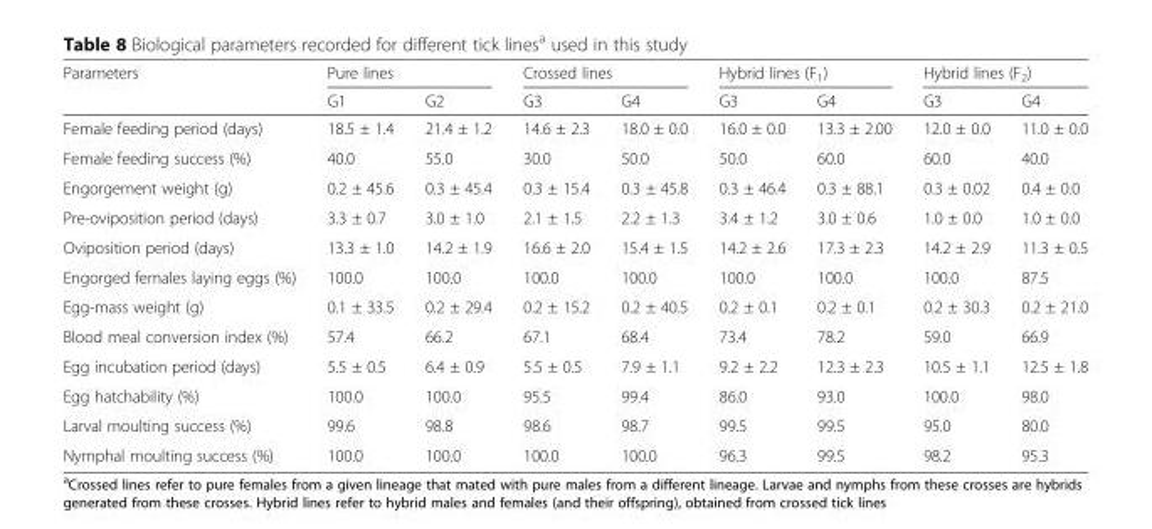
<table><thead><tr><td rowspan="2">Parameters</td><td colspan="2">Pure lines</td><td colspan="2">Crossed lines</td><td colspan="2">Hybrid lines (F<sub>1</sub>)</td><td colspan="2">Hybrid lines (F<sub>2</sub>)</td></tr><tr><td>G1</td><td>G2</td><td>G3</td><td>G4</td><td>G3</td><td>G4</td><td>G3</td><td>G4</td></tr></thead><tbody><tr><td>Female feeding period (days)</td><td>18.5 ± 1.4</td><td>21.4 ± 1.2</td><td>14.6 ± 2.3</td><td>18.0 ± 0.0</td><td>16.0 ± 0.0</td><td>13.3 ± 2.00</td><td>12.0 ± 0.0</td><td>11.0 ± 0.0</td></tr><tr><td>Female feeding success (%)</td><td>40.0</td><td>55.0</td><td>30.0</td><td>50.0</td><td>50.0</td><td>60.0</td><td>60.0</td><td>40.0</td></tr><tr><td>Engorgement weight (g)</td><td>0.2 ± 45.6</td><td>0.3 ± 45.4</td><td>0.3 ± 15.4</td><td>0.3 ± 45.8</td><td>0.3 ± 46.4</td><td>0.3 ± 88.1</td><td>0.3 ± 0.02</td><td>0.4 ± 0.0</td></tr><tr><td>Pre-oviposition period (days)</td><td>3.3 ± 0.7</td><td>3.0 ± 1.0</td><td>2.1 ± 1.5</td><td>2.2 ± 1.3</td><td>3.4 ± 1.2</td><td>3.0 ± 0.6</td><td>1.0 ± 0.0</td><td>1.0 ± 0.0</td></tr><tr><td>Oviposition period (days)</td><td>13.3 ± 1.0</td><td>14.2 ± 1.9</td><td>16.6 ± 2.0</td><td>15.4 ± 1.5</td><td>14.2 ± 2.6</td><td>17.3 ± 2.3</td><td>14.2 ± 2.9</td><td>11.3 ± 0.5</td></tr><tr><td>Engorged females laying eggs (%)</td><td>100.0</td><td>100.0</td><td>100.0</td><td>100.0</td><td>100.0</td><td>100.0</td><td>100.0</td><td>87.5</td></tr><tr><td>Egg-mass weight (g)</td><td>0.1 ± 33.5</td><td>0.2 ± 29.4</td><td>0.2 ± 15.2</td><td>0.2 ± 40.5</td><td>0.2 ± 0.1</td><td>0.2 ± 0.1</td><td>0.2 ± 30.3</td><td>0.2 ± 21.0</td></tr><tr><td>Blood meal conversion index (%)</td><td>57.4</td><td>66.2</td><td>67.1</td><td>68.4</td><td>73.4</td><td>78.2</td><td>59.0</td><td>66.9</td></tr><tr><td>Egg incubation period (days)</td><td>5.5 ± 0.5</td><td>6.4 ± 0.9</td><td>5.5 ± 0.5</td><td>7.9 ± 1.1</td><td>9.2 ± 2.2</td><td>12.3 ± 2.3</td><td>10.5 ± 1.1</td><td>12.5 ± 1.8</td></tr><tr><td>Egg hatchability (%)</td><td>100.0</td><td>100.0</td><td>95.5</td><td>99.4</td><td>86.0</td><td>93.0</td><td>100.0</td><td>98.0</td></tr><tr><td>Larval moulting success (%)</td><td>99.6</td><td>98.8</td><td>98.6</td><td>98.7</td><td>99.5</td><td>99.5</td><td>95.0</td><td>80.0</td></tr><tr><td>Nymphal moulting success (%)</td><td>100.0</td><td>100.0</td><td>100.0</td><td>100.0</td><td>96.3</td><td>99.5</td><td>98.2</td><td>95.3</td></tr></tbody></table>